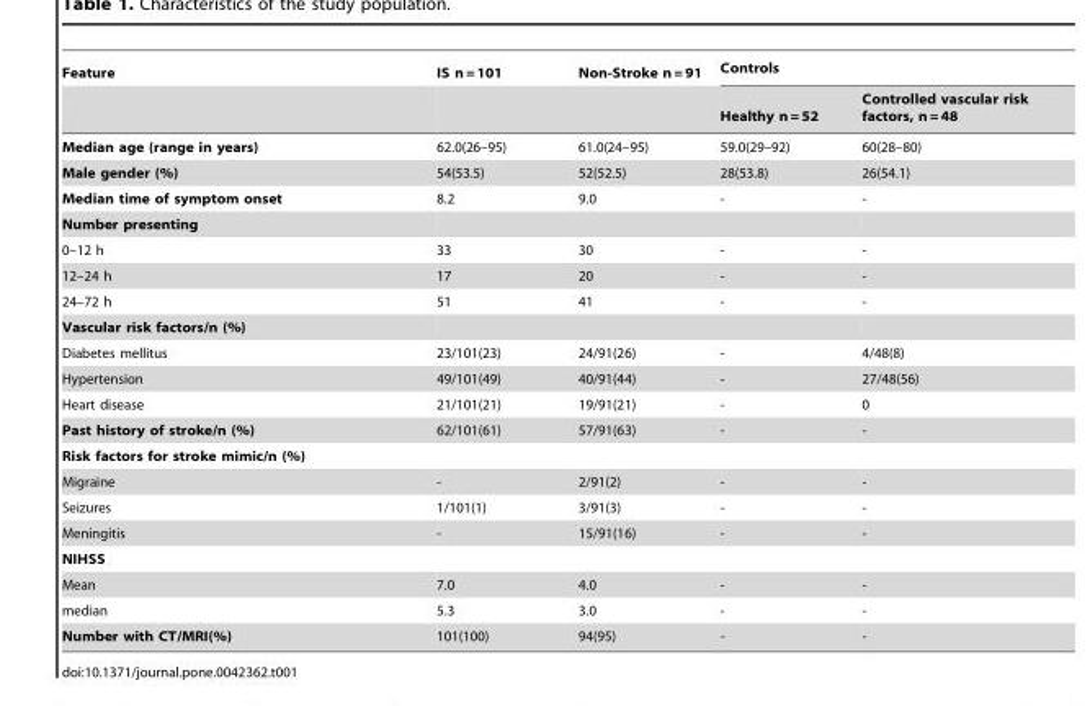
<table><thead><tr><td rowspan="2">Feature</td><td rowspan="2">IS n = 101</td><td rowspan="2">Non-Stroke n = 91</td><td colspan="2">Controls</td></tr><tr><td>Healthy n = 52</td><td>Controlled vascular risk factors, n = 48</td></tr></thead><tbody><tr><td>Median age (range in years)</td><td>62.0(26–95)</td><td>61.0(24–95)</td><td>59.0(29–92)</td><td>60(28–80)</td></tr><tr><td>Male gender (%)</td><td>54(53.5)</td><td>52(52.5)</td><td>28(53.8)</td><td>26(54.1)</td></tr><tr><td>Median time of symptom onset</td><td>8.2</td><td>9.0</td><td>-</td><td>-</td></tr><tr><td colspan="5">Number presenting</td></tr><tr><td>0–12 h</td><td>33</td><td>30</td><td>-</td><td>-</td></tr><tr><td>12–24 h</td><td>17</td><td>20</td><td>-</td><td>-</td></tr><tr><td>24–72 h</td><td>51</td><td>41</td><td>-</td><td>-</td></tr><tr><td colspan="5">Vascular risk factors/n (%)</td></tr><tr><td>Diabetes mellitus</td><td>23/101(23)</td><td>24/91(26)</td><td>-</td><td>4/48(8)</td></tr><tr><td>Hypertension</td><td>49/101(49)</td><td>40/91(44)</td><td>-</td><td>27/48(56)</td></tr><tr><td>Heart disease</td><td>21/101(21)</td><td>19/91(21)</td><td>-</td><td>0</td></tr><tr><td>Past history of stroke/n (%)</td><td>62/101(61)</td><td>57/91(63)</td><td>-</td><td>-</td></tr><tr><td colspan="5">Risk factors for stroke mimic/n (%)</td></tr><tr><td>Migraine</td><td>-</td><td>2/91(2)</td><td>-</td><td>-</td></tr><tr><td>Seizures</td><td>1/101(1)</td><td>3/91(3)</td><td>-</td><td>-</td></tr><tr><td>Meningitis</td><td>-</td><td>15/91(16)</td><td>-</td><td>-</td></tr><tr><td colspan="5">NIHSS</td></tr><tr><td>Mean</td><td>7.0</td><td>4.0</td><td>-</td><td>-</td></tr><tr><td>median</td><td>5.3</td><td>3.0</td><td>-</td><td>-</td></tr><tr><td>Number with CT/MRI(%)</td><td>101(100)</td><td>94(95)</td><td>-</td><td>-</td></tr></tbody></table>